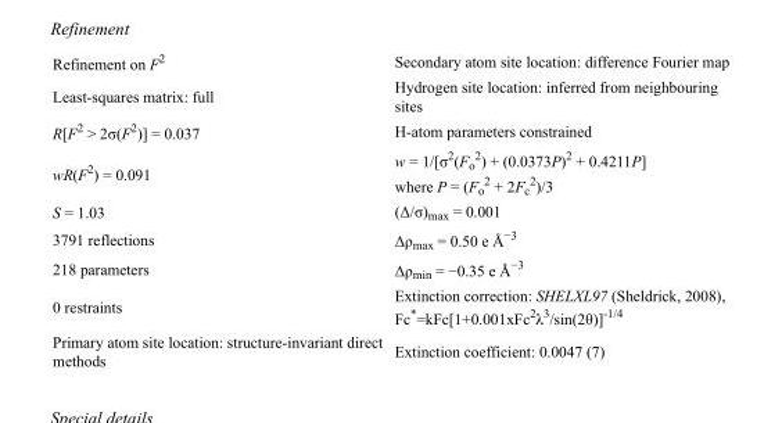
<table><tbody><tr><td>Refinement on F<sup>2</sup></td><td>Secondary atom site location: difference Fourier map</td></tr><tr><td>Least-squares matrix: full</td><td>Hydrogen site location: inferred from neighbouring sites</td></tr><tr><td>R[F<sup>2</sup> &gt; 2σ(F<sup>2</sup>)] = 0.037</td><td>H-atom parameters constrained</td></tr><tr><td>wR(F<sup>2</sup>) = 0.091</td><td>w = 1/[σ<sup>2</sup>(F<sub>o</sub> <sup>2</sup>) + (0.0373P)<sup>2</sup> + 0.4211P] where P = (F<sub>o</sub> <sup>2</sup> + 2F<sub>c</sub> <sup>2</sup>)/3</td></tr><tr><td>S = 1.03</td><td>(Δ/σ)<sub>max</sub> = 0.001</td></tr><tr><td>3791 reflections</td><td>Δρ<sub>max</sub> = 0.50 e Å<sup>−3</sup></td></tr><tr><td>218 parameters</td><td>Δρ<sub>min</sub> = −0.35 e Å<sup>−3</sup></td></tr><tr><td>0 restraints</td><td>Extinction correction: SHELXL97 (Sheldrick, 2008), Fc*=kFc[1+0.001xFc<sup>2</sup>λ<sup>3</sup>/sin(2θ)]<sup>-1/4</sup></td></tr><tr><td>Primary atom site location: structure-invariant direct methods</td><td>Extinction coefficient: 0.0047 (7)</td></tr></tbody></table>